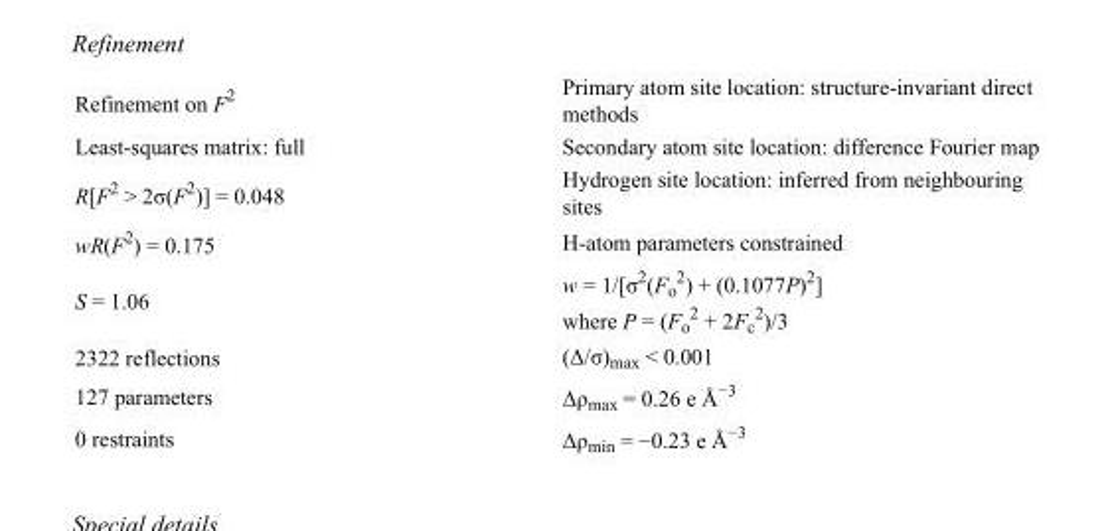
<table><tbody><tr><td>Refinement on F<sup>2</sup></td><td>Primary atom site location: structure-invariant direct methods</td></tr><tr><td>Least-squares matrix: full</td><td>Secondary atom site location: difference Fourier map</td></tr><tr><td>R[F<sup>2</sup> &gt; 2σ(F<sup>2</sup>)] = 0.048</td><td>Hydrogen site location: inferred from neighbouring sites</td></tr><tr><td>wR(F<sup>2</sup>) = 0.175</td><td>H-atom parameters constrained</td></tr><tr><td>S = 1.06</td><td>w = 1/[σ<sup>2</sup>(F<sub>o</sub> <sup>2</sup>) + (0.1077P)<sup>2</sup>] where P = (F<sub>o</sub> <sup>2</sup> + 2F<sub>c</sub> <sup>2</sup>)/3</td></tr><tr><td>2322 reflections</td><td>(Δ/σ)<sub>max</sub> &lt; 0.001</td></tr><tr><td>127 parameters</td><td>Δρ<sub>max</sub> = 0.26 e Å<sup>−3</sup></td></tr><tr><td>0 restraints</td><td>Δρ<sub>min</sub> = −0.23 e Å<sup>−3</sup></td></tr></tbody></table>